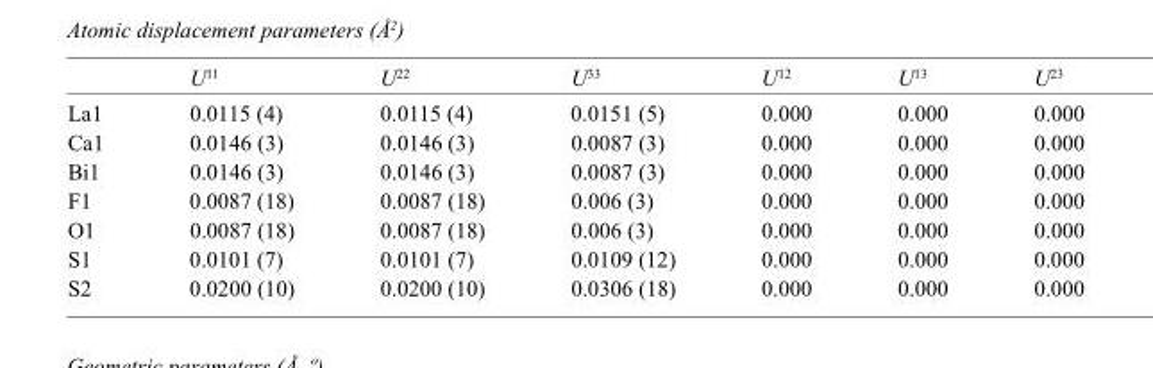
<table><thead><tr><td></td><td>U<sup>11</sup></td><td>U<sup>22</sup></td><td>U<sup>33</sup></td><td>U<sup>12</sup></td><td>U<sup>13</sup></td><td>U<sup>23</sup></td></tr></thead><tbody><tr><td>La1</td><td>0.0115 (4)</td><td>0.0115 (4)</td><td>0.0151 (5)</td><td>0.000</td><td>0.000</td><td>0.000</td></tr><tr><td>Ca1</td><td>0.0146 (3)</td><td>0.0146 (3)</td><td>0.0087 (3)</td><td>0.000</td><td>0.000</td><td>0.000</td></tr><tr><td>Bi1</td><td>0.0146 (3)</td><td>0.0146 (3)</td><td>0.0087 (3)</td><td>0.000</td><td>0.000</td><td>0.000</td></tr><tr><td>F1</td><td>0.0087 (18)</td><td>0.0087 (18)</td><td>0.006 (3)</td><td>0.000</td><td>0.000</td><td>0.000</td></tr><tr><td>O1</td><td>0.0087 (18)</td><td>0.0087 (18)</td><td>0.006 (3)</td><td>0.000</td><td>0.000</td><td>0.000</td></tr><tr><td>S1</td><td>0.0101 (7)</td><td>0.0101 (7)</td><td>0.0109 (12)</td><td>0.000</td><td>0.000</td><td>0.000</td></tr><tr><td>S2</td><td>0.0200 (10)</td><td>0.0200 (10)</td><td>0.0306 (18)</td><td>0.000</td><td>0.000</td><td>0.000</td></tr></tbody></table>